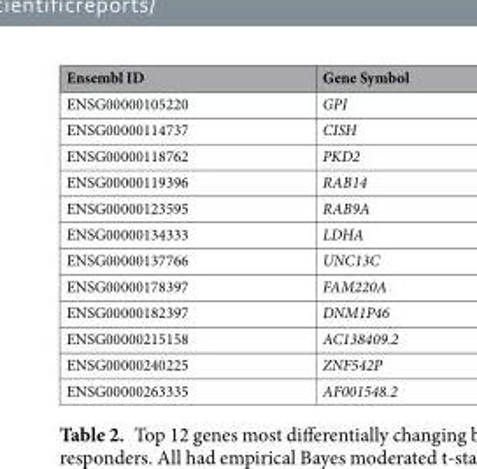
<table><thead><tr><td>Ensembl ID</td><td>Gene Symbol</td></tr></thead><tbody><tr><td>ENSG00000105220</td><td>GPI</td></tr><tr><td>ENSG00000114737</td><td>CISH</td></tr><tr><td>ENSG00000118762</td><td>PKD2</td></tr><tr><td>ENSG00000119396</td><td>RAB14</td></tr><tr><td>ENSG00000123595</td><td>RAB9A</td></tr><tr><td>ENSG00000134333</td><td>LDHA</td></tr><tr><td>ENSG00000137766</td><td>UNC13C</td></tr><tr><td>ENSG00000178397</td><td>FAM220A</td></tr><tr><td>ENSG00000182397</td><td>DNM1P46</td></tr><tr><td>ENSG00000215158</td><td>AC138409.2</td></tr><tr><td>ENSG00000240225</td><td>ZNF542P</td></tr><tr><td>ENSG00000263335</td><td>AF001548.2</td></tr></tbody></table>